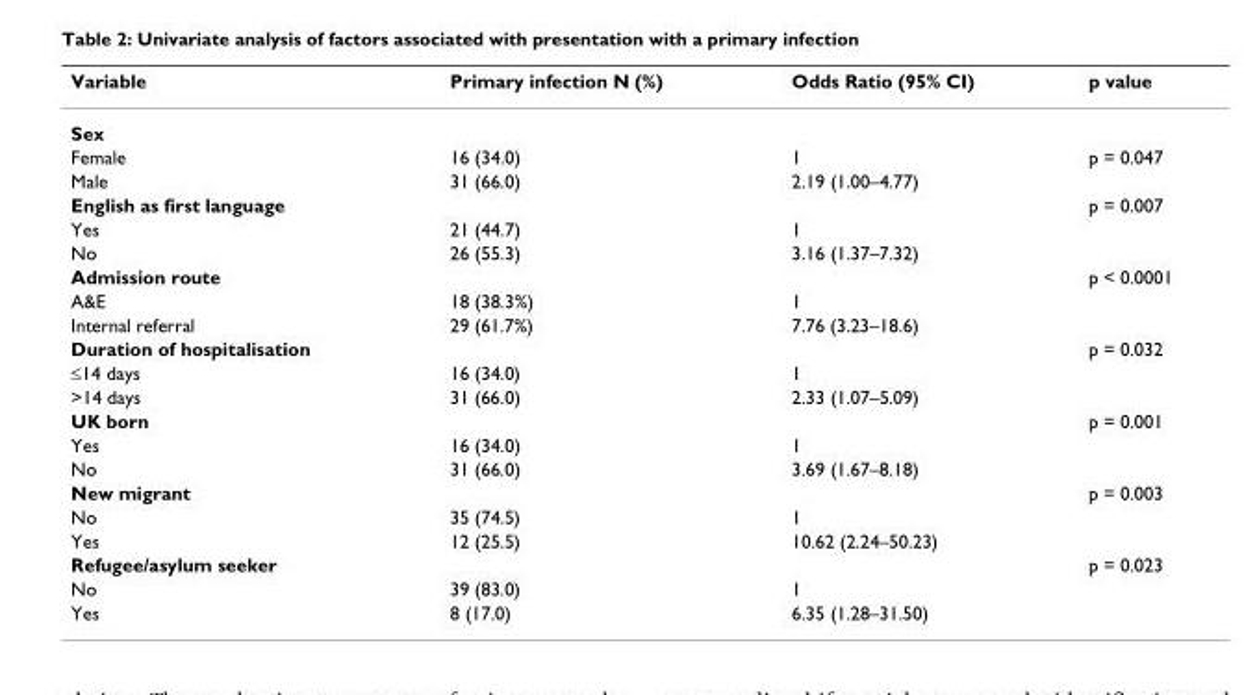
<table><thead><tr><td>Variable</td><td>Primary infection N (%)</td><td>Odds Ratio (95% CI)</td><td>p value</td></tr></thead><tbody><tr><td colspan="4">Sex</td></tr><tr><td>Female</td><td>16 (34.0)</td><td>1</td><td>p = 0.047</td></tr><tr><td>Male</td><td>31 (66.0)</td><td>2.19 (1.00–4.77)</td><td></td></tr><tr><td>English as first language</td><td></td><td></td><td>p = 0.007</td></tr><tr><td>Yes</td><td>21 (44.7)</td><td>1</td><td></td></tr><tr><td>No</td><td>26 (55.3)</td><td>3.16 (1.37–7.32)</td><td></td></tr><tr><td>Admission route</td><td></td><td></td><td>p &lt; 0.0001</td></tr><tr><td>A&amp;E</td><td>18 (38.3%)</td><td>1</td><td></td></tr><tr><td>Internal referral</td><td>29 (61.7%)</td><td>7.76 (3.23–18.6)</td><td></td></tr><tr><td>Duration of hospitalisation</td><td></td><td></td><td>p = 0.032</td></tr><tr><td>≤14 days</td><td>16 (34.0)</td><td>1</td><td></td></tr><tr><td>&gt;14 days</td><td>31 (66.0)</td><td>2.33 (1.07–5.09)</td><td></td></tr><tr><td>UK born</td><td></td><td></td><td>p = 0.001</td></tr><tr><td>Yes</td><td>16 (34.0)</td><td>1</td><td></td></tr><tr><td>No</td><td>31 (66.0)</td><td>3.69 (1.67–8.18)</td><td></td></tr><tr><td>New migrant</td><td></td><td></td><td>p = 0.003</td></tr><tr><td>No</td><td>35 (74.5)</td><td>1</td><td></td></tr><tr><td>Yes</td><td>12 (25.5)</td><td>10.62 (2.24–50.23)</td><td></td></tr><tr><td>Refugee/asylum seeker</td><td></td><td></td><td>p = 0.023</td></tr><tr><td>No</td><td>39 (83.0)</td><td>1</td><td></td></tr><tr><td>Yes</td><td>8 (17.0)</td><td>6.35 (1.28–31.50)</td><td></td></tr></tbody></table>